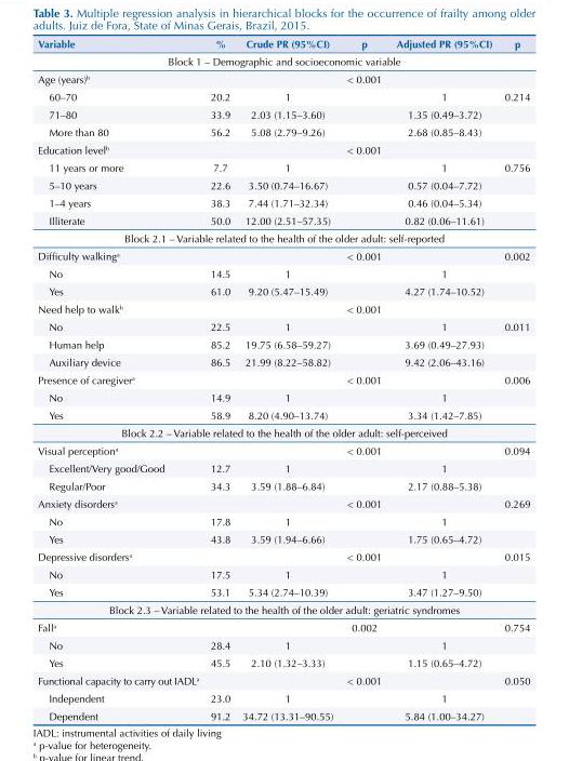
<table><thead><tr><td>Variable</td><td>%</td><td>Crude PR (95%CI)</td><td>p</td><td>Adjusted PR (95%CI)</td><td>p</td></tr></thead><tbody><tr><td colspan="6">Block 1 – Demographic and socioeconomic variable</td></tr><tr><td>Age (years)b</td><td></td><td></td><td>&lt; 0.001</td><td></td><td></td></tr><tr><td>60–70</td><td>20.2</td><td>1</td><td></td><td>1</td><td>0.214</td></tr><tr><td>71–80</td><td>33.9</td><td>2.03 (1.15–3.60)</td><td></td><td>1.35 (0.49–3.72)</td><td></td></tr><tr><td>More than 80</td><td>56.2</td><td>5.08 (2.79–9.26)</td><td></td><td>2.68 (0.85–8.43)</td><td></td></tr><tr><td>Education levelb</td><td></td><td></td><td>&lt; 0.001</td><td></td><td></td></tr><tr><td>11 years or more</td><td>7.7</td><td>1</td><td></td><td>1</td><td>0.756</td></tr><tr><td>5–10 years</td><td>22.6</td><td>3.50 (0.74–16.67)</td><td></td><td>0.57 (0.04–7.72)</td><td></td></tr><tr><td>1–4 years</td><td>38.3</td><td>7.44 (1.71–32.34)</td><td></td><td>0.46 (0.04–5.34)</td><td></td></tr><tr><td>Illiterate</td><td>50.0</td><td>12.00 (2.51–57.35)</td><td></td><td>0.82 (0.06–11.61)</td><td></td></tr><tr><td colspan="6">Block 2.1 – Variable related to the health of the older adult: self-reported</td></tr><tr><td>Difficulty walkinga</td><td></td><td></td><td>&lt; 0.001</td><td></td><td>0.002</td></tr><tr><td>No</td><td>14.5</td><td>1</td><td></td><td>1</td><td></td></tr><tr><td>Yes</td><td>61.0</td><td>9.20 (5.47–15.49)</td><td></td><td>4.27 (1.74–10.52)</td><td></td></tr><tr><td>Need help to walkb</td><td></td><td></td><td>&lt; 0.001</td><td></td><td></td></tr><tr><td>No</td><td>22.5</td><td>1</td><td></td><td>1</td><td>0.011</td></tr><tr><td>Human help</td><td>85.2</td><td>19.75 (6.58–59.27)</td><td></td><td>3.69 (0.49–27.93)</td><td></td></tr><tr><td>Auxiliary device</td><td>86.5</td><td>21.99 (8.22–58.82)</td><td></td><td>9.42 (2.06–43.16)</td><td></td></tr><tr><td>Presence of caregivera</td><td></td><td></td><td>&lt; 0.001</td><td></td><td>0.006</td></tr><tr><td>No</td><td>14.9</td><td>1</td><td></td><td>1</td><td></td></tr><tr><td>Yes</td><td>58.9</td><td>8.20 (4.90–13.74)</td><td></td><td>3.34 (1.42–7.85)</td><td></td></tr><tr><td colspan="6">Block 2.2 – Variable related to the health of the older adult: self-perceived</td></tr><tr><td>Visual perceptiona</td><td></td><td></td><td>&lt; 0.001</td><td></td><td>0.094</td></tr><tr><td>Excellent/Very good/Good</td><td>12.7</td><td>1</td><td></td><td>1</td><td></td></tr><tr><td>Regular/Poor</td><td>34.3</td><td>3.59 (1.88–6.84)</td><td></td><td>2.17 (0.88–5.38)</td><td></td></tr><tr><td>Anxiety disordersa</td><td></td><td></td><td>&lt; 0.001</td><td></td><td>0.269</td></tr><tr><td>No</td><td>17.8</td><td>1</td><td></td><td>1</td><td></td></tr><tr><td>Yes</td><td>43.8</td><td>3.59 (1.94–6.66)</td><td></td><td>1.75 (0.65–4.72)</td><td></td></tr><tr><td>Depressive disordersa</td><td></td><td></td><td>&lt; 0.001</td><td></td><td>0.015</td></tr><tr><td>No</td><td>17.5</td><td>1</td><td></td><td>1</td><td></td></tr><tr><td>Yes</td><td>53.1</td><td>5.34 (2.74–10.39)</td><td></td><td>3.47 (1.27–9.50)</td><td></td></tr><tr><td colspan="6">Block 2.3 – Variable related to the health of the older adult: geriatric syndromes</td></tr><tr><td>Falla</td><td></td><td></td><td>0.002</td><td></td><td>0.754</td></tr><tr><td>No</td><td>28.4</td><td>1</td><td></td><td>1</td><td></td></tr><tr><td>Yes</td><td>45.5</td><td>2.10 (1.32–3.33)</td><td></td><td>1.15 (0.65–4.72)</td><td></td></tr><tr><td>Functional capacity to carry out IADLa</td><td></td><td></td><td>&lt; 0.001</td><td></td><td>0.050</td></tr><tr><td>Independent</td><td>23.0</td><td>1</td><td></td><td>1</td><td></td></tr><tr><td>Dependent</td><td>91.2</td><td>34.72 (13.31–90.55)</td><td></td><td>5.84 (1.00–34.27)</td><td></td></tr></tbody></table>